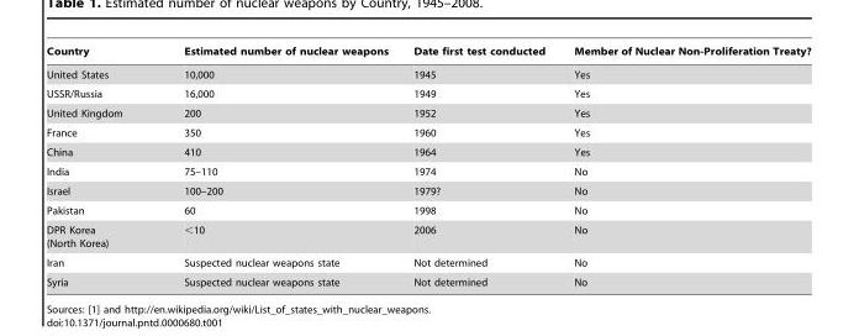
<table><thead><tr><td>Country</td><td>Estimated number of nuclear weapons</td><td>Date first test conducted</td><td>Member of Nuclear Non-Proliferation Treaty?</td></tr></thead><tbody><tr><td>United States</td><td>10,000</td><td>1945</td><td>Yes</td></tr><tr><td>USSR/Russia</td><td>16,000</td><td>1949</td><td>Yes</td></tr><tr><td>United Kingdom</td><td>200</td><td>1952</td><td>Yes</td></tr><tr><td>France</td><td>350</td><td>1960</td><td>Yes</td></tr><tr><td>China</td><td>410</td><td>1964</td><td>Yes</td></tr><tr><td>India</td><td>75–110</td><td>1974</td><td>No</td></tr><tr><td>Israel</td><td>100–200</td><td>1979?</td><td>No</td></tr><tr><td>Pakistan</td><td>60</td><td>1998</td><td>No</td></tr><tr><td>DPR Korea (North Korea)</td><td>&lt;10</td><td>2006</td><td>No</td></tr><tr><td>Iran</td><td>Suspected nuclear weapons state</td><td>Not determined</td><td>No</td></tr><tr><td>Syria</td><td>Suspected nuclear weapons state</td><td>Not determined</td><td>No</td></tr></tbody></table>